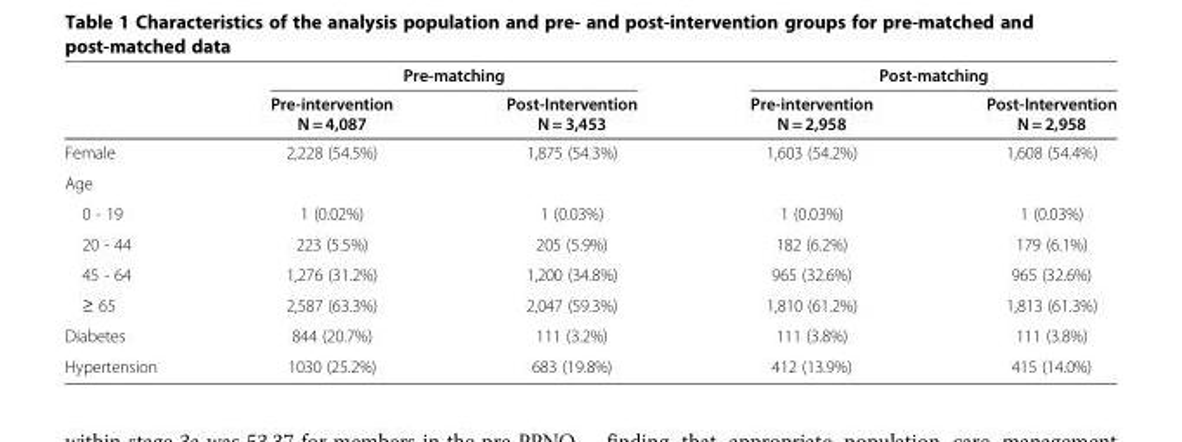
<table><thead><tr><td rowspan="2"></td><td colspan="2">Pre-matching</td><td colspan="2">Post-matching</td></tr><tr><td>Pre-intervention N = 4,087</td><td>Post-Intervention N = 3,453</td><td>Pre-intervention N = 2,958</td><td>Post-Intervention N = 2,958</td></tr></thead><tbody><tr><td>Female</td><td>2,228 (54.5%)</td><td>1,875 (54.3%)</td><td>1,603 (54.2%)</td><td>1,608 (54.4%)</td></tr><tr><td colspan="5">Age</td></tr><tr><td>0 - 19</td><td>1 (0.02%)</td><td>1 (0.03%)</td><td>1 (0.03%)</td><td>1 (0.03%)</td></tr><tr><td>20 - 44</td><td>223 (5.5%)</td><td>205 (5.9%)</td><td>182 (6.2%)</td><td>179 (6.1%)</td></tr><tr><td>45 - 64</td><td>1,276 (31.2%)</td><td>1,200 (34.8%)</td><td>965 (32.6%)</td><td>965 (32.6%)</td></tr><tr><td>≥ 65</td><td>2,587 (63.3%)</td><td>2,047 (59.3%)</td><td>1,810 (61.2%)</td><td>1,813 (61.3%)</td></tr><tr><td>Diabetes</td><td>844 (20.7%)</td><td>111 (3.2%)</td><td>111 (3.8%)</td><td>111 (3.8%)</td></tr><tr><td>Hypertension</td><td>1030 (25.2%)</td><td>683 (19.8%)</td><td>412 (13.9%)</td><td>415 (14.0%)</td></tr></tbody></table>